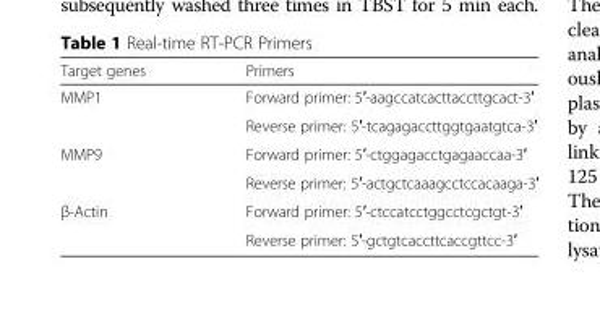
<table><thead><tr><td>Target genes</td><td>Primers</td></tr></thead><tbody><tr><td rowspan="2">MMP1</td><td>Forward primer: 5′-aagccatcacttaccttgcact-3′</td></tr><tr><td>Reverse primer: 5′-tcagagaccttggtgaatgtca-3′</td></tr><tr><td rowspan="2">MMP9</td><td>Forward primer: 5′-ctggagacctgagaaccaa-3′</td></tr><tr><td>Reverse primer: 5′-actgctcaaagcctccacaaga-3′</td></tr><tr><td rowspan="2">β-Actin</td><td>Forward primer: 5′-ctccatcctggcctcgctgt-3′</td></tr><tr><td>Reverse primer: 5′-gctgtcaccttcaccgttcc-3′</td></tr></tbody></table>